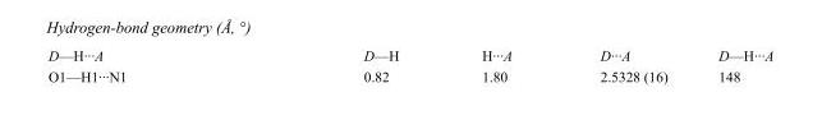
<table><tbody><tr><td>D—H···A</td><td>D—H</td><td>H···A</td><td>D···A</td><td>D—H···A</td></tr><tr><td>O1—H1···N1</td><td>0.82</td><td>1.80</td><td>2.5328 (16)</td><td>148</td></tr></tbody></table>